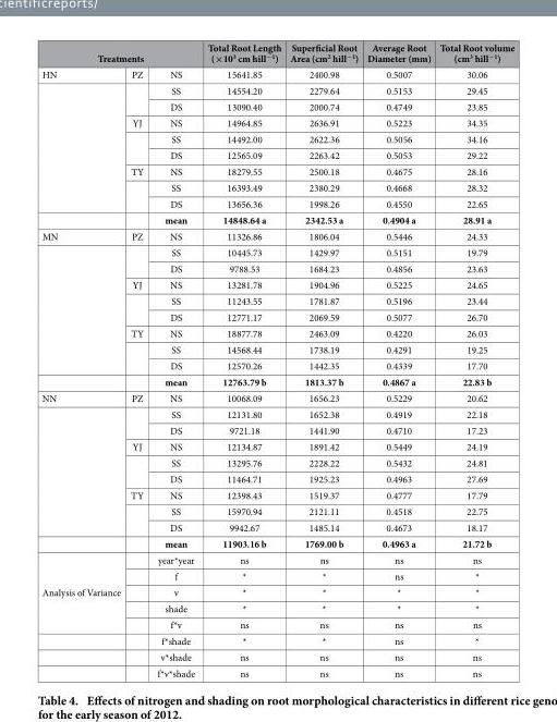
<table><thead><tr><td colspan="3">Treatments</td><td rowspan="2">Total Root Length (×10<sup>3</sup> cm hill<sup>−1</sup>) 15641.85</td><td rowspan="2">Superficial Root Area (cm<sup>2</sup> hill<sup>−1</sup>) 2400.98</td><td rowspan="2">Average Root Diameter (mm) 0.5007</td><td rowspan="2">Total Root volume (cm<sup>3</sup> hill<sup>−1</sup>) 30.06</td></tr><tr><td>HN</td><td>PZ</td><td>NS</td></tr></thead><tbody><tr><td rowspan="8"></td><td rowspan="2"></td><td>SS</td><td>14554.20</td><td>2279.64</td><td>0.5153</td><td>29.45</td></tr><tr><td>DS</td><td>13090.40</td><td>2000.74</td><td>0.4749</td><td>23.85</td></tr><tr><td>YJ</td><td>NS</td><td>14964.85</td><td>2636.91</td><td>0.5223</td><td>34.35</td></tr><tr><td rowspan="2"></td><td>SS</td><td>14492.00</td><td>2622.36</td><td>0.5056</td><td>34.16</td></tr><tr><td>DS</td><td>12565.09</td><td>2263.42</td><td>0.5053</td><td>29.22</td></tr><tr><td>TY</td><td>NS</td><td>18279.55</td><td>2500.18</td><td>0.4675</td><td>28.16</td></tr><tr><td rowspan="2"></td><td>SS</td><td>16393.49</td><td>2380.29</td><td>0.4668</td><td>28.32</td></tr><tr><td>DS</td><td>13656.36</td><td>1998.26</td><td>0.4550</td><td>22.65</td></tr><tr><td></td><td></td><td>mean</td><td>14848.64 a</td><td>2342.53 a</td><td>0.4904 a</td><td>28.91 a</td></tr><tr><td rowspan="10">MN</td><td>PZ</td><td>NS</td><td>11326.86</td><td>1806.04</td><td>0.5446</td><td>24.33</td></tr><tr><td rowspan="2"></td><td>SS</td><td>10445.73</td><td>1429.97</td><td>0.5151</td><td>19.79</td></tr><tr><td>DS</td><td>9788.53</td><td>1684.23</td><td>0.4856</td><td>23.63</td></tr><tr><td>YJ</td><td>NS</td><td>13281.78</td><td>1904.96</td><td>0.5225</td><td>24.65</td></tr><tr><td rowspan="2"></td><td>SS</td><td>11243.55</td><td>1781.87</td><td>0.5196</td><td>23.44</td></tr><tr><td>DS</td><td>12771.17</td><td>2069.59</td><td>0.5077</td><td>26.70</td></tr><tr><td>TY</td><td>NS</td><td>18877.78</td><td>2463.09</td><td>0.4220</td><td>26.03</td></tr><tr><td rowspan="2"></td><td>SS</td><td>14568.44</td><td>1738.19</td><td>0.4291</td><td>19.25</td></tr><tr><td>DS</td><td>12570.26</td><td>1442.35</td><td>0.4339</td><td>17.70</td></tr><tr><td></td><td>mean</td><td>12763.79 b</td><td>1813.37 b</td><td>0.4867 a</td><td>22.83 b</td></tr><tr><td rowspan="10">NN</td><td>PZ</td><td>NS</td><td>10068.09</td><td>1656.23</td><td>0.5229</td><td>20.62</td></tr><tr><td rowspan="2"></td><td>SS</td><td>12131.80</td><td>1652.38</td><td>0.4919</td><td>22.18</td></tr><tr><td>DS</td><td>9721.18</td><td>1441.90</td><td>0.4710</td><td>17.23</td></tr><tr><td>YJ</td><td>NS</td><td>12134.87</td><td>1891.42</td><td>0.5449</td><td>24.19</td></tr><tr><td rowspan="2"></td><td>SS</td><td>13295.76</td><td>2228.22</td><td>0.5432</td><td>24.81</td></tr><tr><td>DS</td><td>11464.71</td><td>1925.23</td><td>0.4963</td><td>27.69</td></tr><tr><td>TY</td><td>NS</td><td>12398.43</td><td>1519.37</td><td>0.4777</td><td>17.79</td></tr><tr><td rowspan="2"></td><td>SS</td><td>15970.94</td><td>2121.11</td><td>0.4518</td><td>22.75</td></tr><tr><td>DS</td><td>9942.67</td><td>1485.14</td><td>0.4673</td><td>18.17</td></tr><tr><td></td><td>mean</td><td>11903.16 b</td><td>1769.00 b</td><td>0.4963 a</td><td>21.72 b</td></tr><tr><td rowspan="8">Analysis of Variance</td><td></td><td>year*year</td><td>ns</td><td>ns</td><td>ns</td><td>ns</td></tr><tr><td></td><td>f</td><td>*</td><td>*</td><td>ns</td><td>*</td></tr><tr><td></td><td>v</td><td>*</td><td>*</td><td>*</td><td>*</td></tr><tr><td></td><td>shade</td><td>*</td><td>*</td><td>*</td><td>*</td></tr><tr><td></td><td>f*v</td><td>ns</td><td>ns</td><td>ns</td><td>ns</td></tr><tr><td></td><td>f*shade</td><td>*</td><td>*</td><td>ns</td><td>*</td></tr><tr><td></td><td>v*shade</td><td>ns</td><td>ns</td><td>ns</td><td>ns</td></tr><tr><td></td><td>f*v*shade</td><td>ns</td><td>ns</td><td>ns</td><td>ns</td></tr></tbody></table>